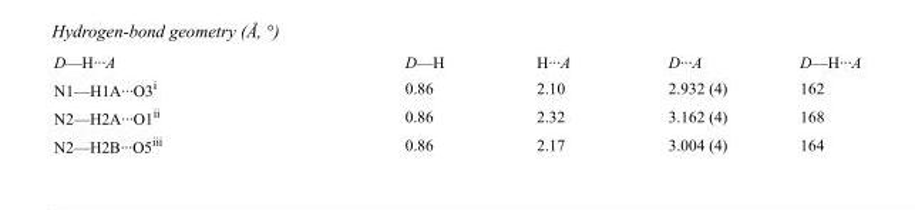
<table><tbody><tr><td>D—H···A</td><td>D—H</td><td>H···A</td><td>D···A</td><td>D—H···A</td></tr><tr><td>N1—H1A···O3<sup>i</sup></td><td>0.86</td><td>2.10</td><td>2.932 (4)</td><td>162</td></tr><tr><td>N2—H2A···O1<sup>ii</sup></td><td>0.86</td><td>2.32</td><td>3.162 (4)</td><td>168</td></tr><tr><td>N2—H2B···O5<sup>iii</sup></td><td>0.86</td><td>2.17</td><td>3.004 (4)</td><td>164</td></tr></tbody></table>